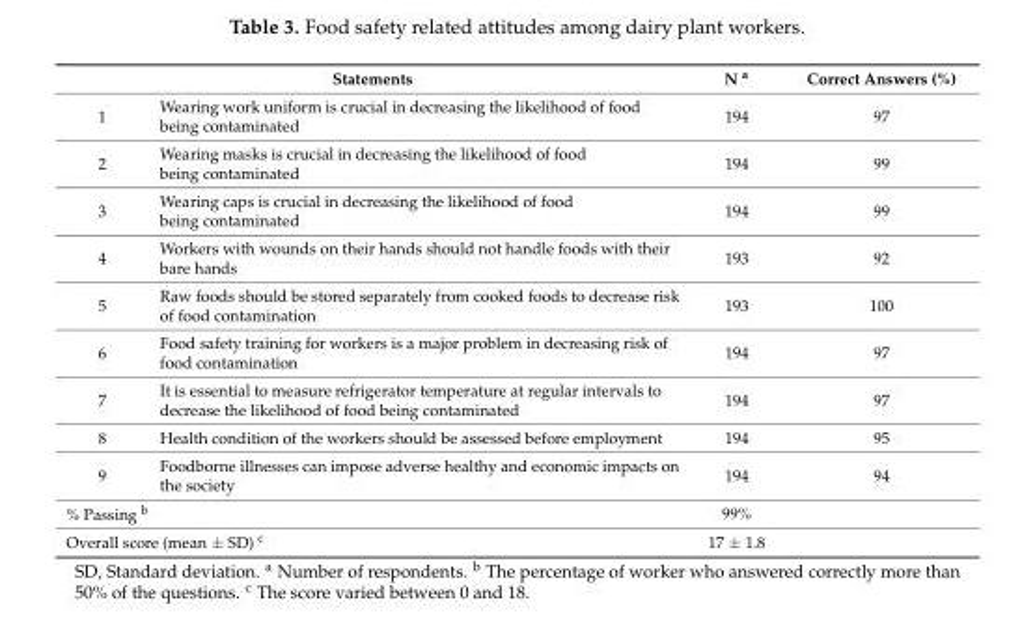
<table><thead><tr><td colspan="2">Statements</td><td rowspan="2">N <sup>a</sup> 194</td><td rowspan="2">Correct Answers (%) 97</td></tr><tr><td>1</td><td>Wearing work uniform is crucial in decreasing the likelihood of food being contaminated</td></tr></thead><tbody><tr><td>2</td><td>Wearing masks is crucial in decreasing the likelihood of food being contaminated</td><td>194</td><td>99</td></tr><tr><td>3</td><td>Wearing caps is crucial in decreasing the likelihood of food being contaminated</td><td>194</td><td>99</td></tr><tr><td>4</td><td>Workers with wounds on their hands should not handle foods with their bare hands</td><td>193</td><td>92</td></tr><tr><td>5</td><td>Raw foods should be stored separately from cooked foods to decrease risk of food contamination</td><td>193</td><td>100</td></tr><tr><td>6</td><td>Food safety training for workers is a major problem in decreasing risk of food contamination</td><td>194</td><td>97</td></tr><tr><td>7</td><td>It is essential to measure refrigerator temperature at regular intervals to decrease the likelihood of food being contaminated</td><td>194</td><td>97</td></tr><tr><td>8</td><td>Health condition of the workers should be assessed before employment</td><td>194</td><td>95</td></tr><tr><td>9</td><td>Foodborne illnesses can impose adverse healthy and economic impacts on the society</td><td>194</td><td>94</td></tr><tr><td colspan="2">% Passing <sup>b</sup></td><td>99%</td><td></td></tr><tr><td colspan="2">Overall score (mean ± SD) <sup>c</sup></td><td>17 ± 1.8</td><td></td></tr></tbody></table>